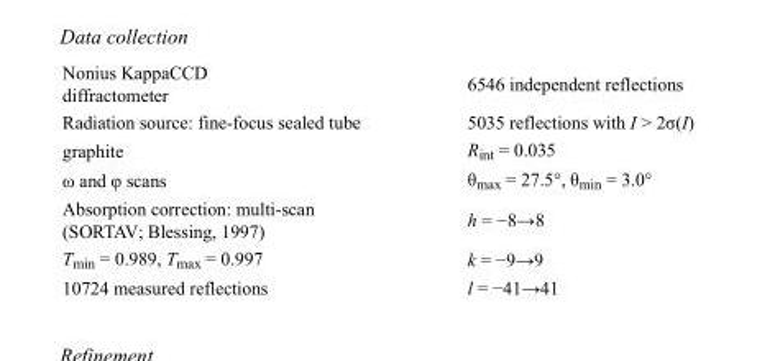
<table><tbody><tr><td>Nonius KappaCCD diffractometer</td><td>6546 independent reflections</td></tr><tr><td>Radiation source: fine-focus sealed tube</td><td>5035 reflections with I &gt; 2σ(I)</td></tr><tr><td>graphite</td><td>R<sub>int</sub> = 0.035</td></tr><tr><td>ω and φ scans</td><td>θ<sub>max</sub> = 27.5°, θ<sub>min</sub> = 3.0°</td></tr><tr><td>Absorption correction: multi-scan (SORTAV; Blessing, 1997)</td><td>h = −8→8</td></tr><tr><td>T<sub>min</sub> = 0.989, T<sub>max</sub> = 0.997</td><td>k = −9→9</td></tr><tr><td>10724 measured reflections</td><td>l = −41→41</td></tr></tbody></table>